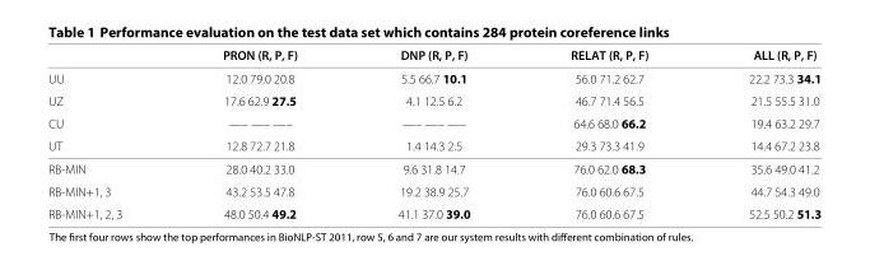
<table><thead><tr><td></td><td>PRON (R, P, F)</td><td>DNP (R, P, F)</td><td>RELAT (R, P, F)</td><td>ALL (R, P, F)</td></tr></thead><tbody><tr><td>UU</td><td>12.0 79.0 20.8</td><td>5.5 66.7 10.1</td><td>56.0 71.2 62.7</td><td>22.2 73.3 34.1</td></tr><tr><td>UZ</td><td>17.6 62.9 27.5</td><td>4.1 12.5 6.2</td><td>46.7 71.4 56.5</td><td>21.5 55.5 31.0</td></tr><tr><td>CU</td><td>—– —– —–</td><td>—– —– —–</td><td>64.6 68.0 66.2</td><td>19.4 63.2 29.7</td></tr><tr><td>UT</td><td>12.8 72.7 21.8</td><td>1.4 14.3 2.5</td><td>29.3 73.3 41.9</td><td>14.4 67.2 23.8</td></tr><tr><td>RB-MIN</td><td>28.0 40.2 33.0</td><td>9.6 31.8 14.7</td><td>76.0 62.0 68.3</td><td>35.6 49.0 41.2</td></tr><tr><td>RB-MIN+1, 3</td><td>43.2 53.5 47.8</td><td>19.2 38.9 25.7</td><td>76.0 60.6 67.5</td><td>44.7 54.3 49.0</td></tr><tr><td>RB-MIN+1, 2, 3</td><td>48.0 50.4 49.2</td><td>41.1 37.0 39.0</td><td>76.0 60.6 67.5</td><td>52.5 50.2 51.3</td></tr></tbody></table>